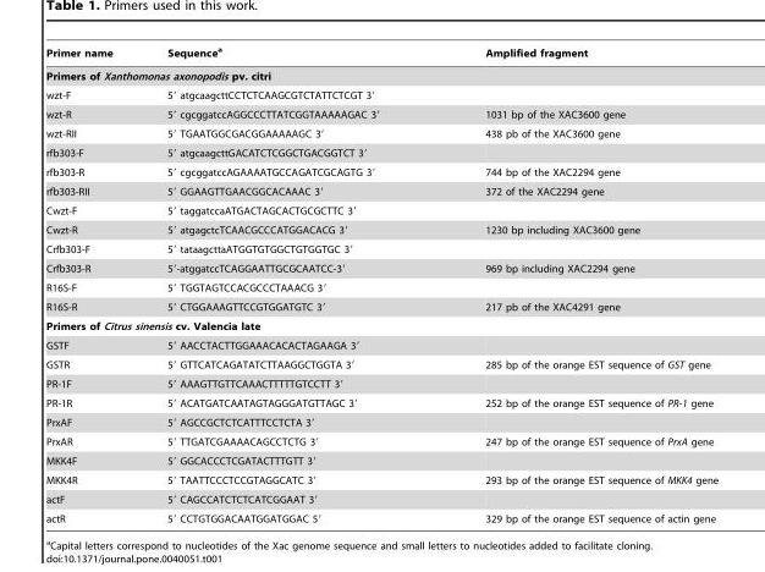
<table><thead><tr><td>Primer name</td><td>Sequence<sup>a</sup></td><td>Amplified fragment</td></tr></thead><tbody><tr><td colspan="3">Primers of Xanthomonas axonopodis pv. citri</td></tr><tr><td>wzt-F</td><td>5′ atgcaagcttCCTCTCAAGCGTCTATTCTCGT 3′</td><td></td></tr><tr><td>wzt-R</td><td>5′ cgcggatccAGGCCCTTATCGGTAAAAAGAC 3′</td><td>1031 bp of the XAC3600 gene</td></tr><tr><td>wzt-RII</td><td>5′ TGAATGGCGACGGAAAAAGC 3′</td><td>438 pb of the XAC3600 gene</td></tr><tr><td>rfb303-F</td><td>5′ atgcaagcttGACATCTCGGCTGACGGTCT 3′</td><td></td></tr><tr><td>rfb303-R</td><td>5′ cgcggatccAGAAAATGCCAGATCGCAGTG 3′</td><td>744 bp of the XAC2294 gene</td></tr><tr><td>rfb303-RII</td><td>5′ GGAAGTTGAACGGCACAAAC 3′</td><td>372 of the XAC2294 gene</td></tr><tr><td>Cwzt-F</td><td>5′ taggatccaATGACTAGCACTGCGCTTC 3′</td><td></td></tr><tr><td>Cwzt-R</td><td>5′ atgagctcTCAACGCCCATGGACACG 3′</td><td>1230 bp including XAC3600 gene</td></tr><tr><td>Crfb303-F</td><td>5′ tataagcttaATGGTGTGGCTGTGGTGC 3′</td><td></td></tr><tr><td>Crfb303-R</td><td>5′-atggatccTCAGGAATTGCGCAATCC-3′</td><td>969 bp including XAC2294 gene</td></tr><tr><td>R16S-F</td><td>5′ TGGTAGTCCACGCCCTAAACG 3′</td><td></td></tr><tr><td>R16S-R</td><td>5′ CTGGAAAGTTCCGTGGATGTC 3′</td><td>217 pb of the XAC4291 gene</td></tr><tr><td colspan="3">Primers of Citrus sinensis cv. Valencia late</td></tr><tr><td>GSTF</td><td>5′ AACCTACTTGGAAACACACTAGAAGA 3′</td><td></td></tr><tr><td>GSTR</td><td>5′ GTTCATCAGATATCTTAAGGCTGGTA 3′</td><td>285 bp of the orange EST sequence of GST gene</td></tr><tr><td>PR-1F</td><td>5′ AAAGTTGTTCAAACTTTTTGTCCTT 3′</td><td></td></tr><tr><td>PR-1R</td><td>5′ ACATGATCAATAGTAGGGATGTTAGC 3′</td><td>252 bp of the orange EST sequence of PR-1 gene</td></tr><tr><td>PrxAF</td><td>5′ AGCCGCTCTCATTTCCTCTA 3′</td><td></td></tr><tr><td>PrxAR</td><td>5′ TTGATCGAAAACAGCCTCTG 3′</td><td>247 bp of the orange EST sequence of PrxA gene</td></tr><tr><td>MKK4F</td><td>5′ GGCACCCTCGATACTTTGTT 3′</td><td></td></tr><tr><td>MKK4R</td><td>5′ TAATTCCCTCCGTAGGCATC 3′</td><td>293 bp of the orange EST sequence of MKK4 gene</td></tr><tr><td>actF</td><td>5′ CAGCCATCTCTCATCGGAAT 3′</td><td></td></tr><tr><td>actR</td><td>5′ CCTGTGGACAATGGATGGAC 5′</td><td>329 bp of the orange EST sequence of actin gene</td></tr></tbody></table>